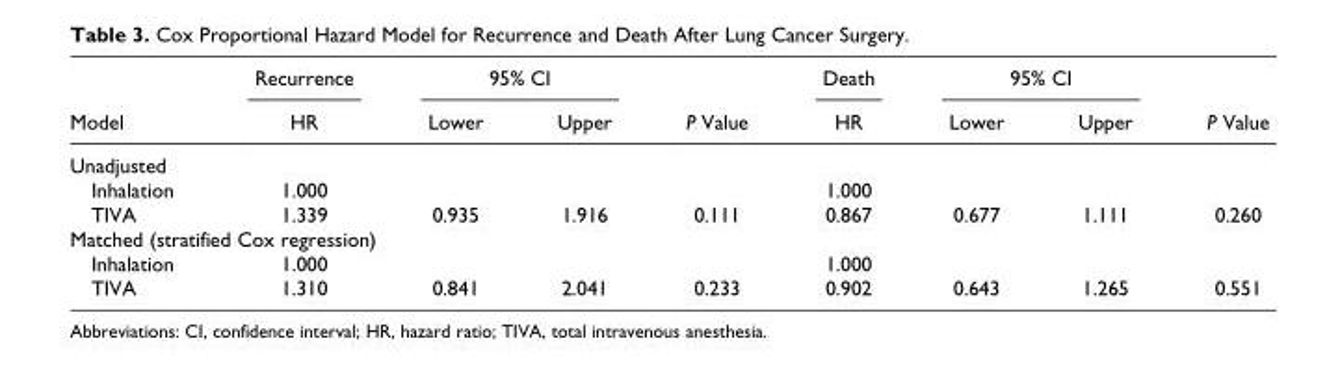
<table><thead><tr><td rowspan="2">Model</td><td rowspan="2">Recurrence HR</td><td colspan="2">95% CI</td><td rowspan="2">P Value</td><td rowspan="2">Death HR</td><td colspan="2">95% CI</td><td rowspan="2">P Value</td></tr><tr><td>Lower</td><td>Upper</td><td>Lower</td><td>Upper</td></tr></thead><tbody><tr><td colspan="9">Unadjusted</td></tr><tr><td>Inhalation</td><td>1.000</td><td></td><td></td><td></td><td>1.000</td><td></td><td></td><td></td></tr><tr><td>TIVA</td><td>1.339</td><td>0.935</td><td>1.916</td><td>0.111</td><td>0.867</td><td>0.677</td><td>1.111</td><td>0.260</td></tr><tr><td colspan="9">Matched (stratified Cox regression)</td></tr><tr><td>Inhalation</td><td>1.000</td><td></td><td></td><td></td><td>1.000</td><td></td><td></td><td></td></tr><tr><td>TIVA</td><td>1.310</td><td>0.841</td><td>2.041</td><td>0.233</td><td>0.902</td><td>0.643</td><td>1.265</td><td>0.551</td></tr></tbody></table>